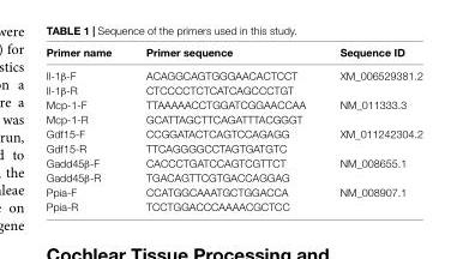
<table><thead><tr><td>Primer name</td><td>Primer sequence</td><td>Sequence ID</td></tr></thead><tbody><tr><td>Il-1β-F</td><td>ACAGGCAGTGGGAACACTCCT</td><td>XM_006529381.2</td></tr><tr><td>Il-1β-R</td><td>CTCCCCTCTCATCAGCCCTGT</td><td></td></tr><tr><td>Mcp-1-F</td><td>TTAAAAACCTGGATCGGAACCAA</td><td>NM_011333.3</td></tr><tr><td>Mcp-1-R</td><td>GCATTAGCTTCAGATTTACGGGT</td><td></td></tr><tr><td>Gdf15-F</td><td>CCGGATACTCAGTCCAGAGG</td><td>XM_011242304.2</td></tr><tr><td>Gdf15-R</td><td>TTCAGGGGCCTAGTGATGTC</td><td></td></tr><tr><td>Gadd45β-F</td><td>CACCCTGATCCAGTCGTTCT</td><td>NM_008655.1</td></tr><tr><td>Gadd45β-R</td><td>TGACAGTTCGTGACCAGGAG</td><td></td></tr><tr><td>Ppia-F</td><td>CCATGGCAAATGCTGGACCA</td><td>NM_008907.1</td></tr><tr><td>Ppia-R</td><td>TCCTGGACCCAAAACGCTCC</td><td></td></tr></tbody></table>